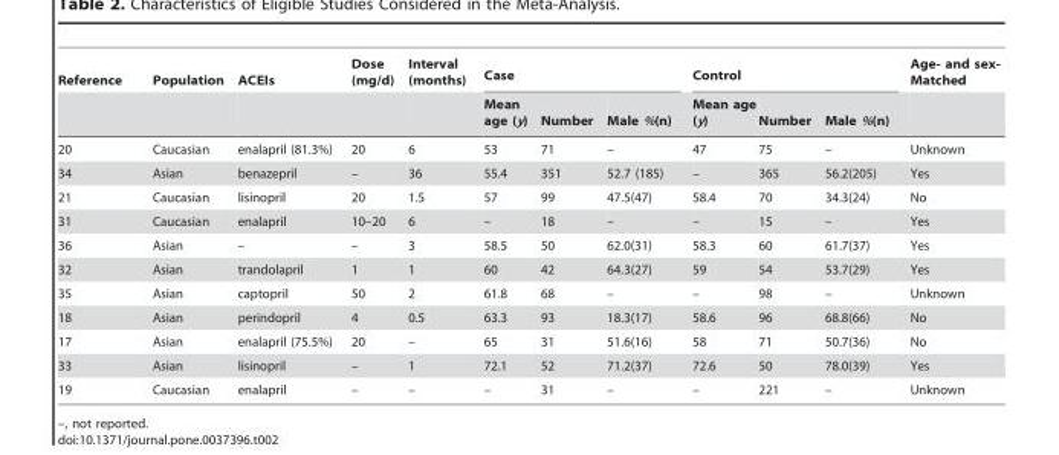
<table><thead><tr><td rowspan="2">Reference</td><td rowspan="2">Population</td><td rowspan="2">ACEIs</td><td rowspan="2">Dose (mg/d)</td><td rowspan="2">Interval (months)</td><td colspan="3">Case</td><td colspan="3">Control</td><td rowspan="2">Age- and sex- Matched</td></tr><tr><td>Mean age (y)</td><td>Number</td><td>Male %(n)</td><td>Mean age (y)</td><td>Number</td><td>Male %(n)</td></tr></thead><tbody><tr><td>20</td><td>Caucasian</td><td>enalapril (81.3%)</td><td>20</td><td>6</td><td>53</td><td>71</td><td>–</td><td>47</td><td>75</td><td>–</td><td>Unknown</td></tr><tr><td>34</td><td>Asian</td><td>benazepril</td><td>–</td><td>36</td><td>55.4</td><td>351</td><td>52.7 (185)</td><td>–</td><td>365</td><td>56.2(205)</td><td>Yes</td></tr><tr><td>21</td><td>Caucasian</td><td>lisinopril</td><td>20</td><td>1.5</td><td>57</td><td>99</td><td>47.5(47)</td><td>58.4</td><td>70</td><td>34.3(24)</td><td>No</td></tr><tr><td>31</td><td>Caucasian</td><td>enalapril</td><td>10–20</td><td>6</td><td>–</td><td>18</td><td>–</td><td>–</td><td>15</td><td>–</td><td>Yes</td></tr><tr><td>36</td><td>Asian</td><td>–</td><td>–</td><td>3</td><td>58.5</td><td>50</td><td>62.0(31)</td><td>58.3</td><td>60</td><td>61.7(37)</td><td>Yes</td></tr><tr><td>32</td><td>Asian</td><td>trandolapril</td><td>1</td><td>1</td><td>60</td><td>42</td><td>64.3(27)</td><td>59</td><td>54</td><td>53.7(29)</td><td>Yes</td></tr><tr><td>35</td><td>Asian</td><td>captopril</td><td>50</td><td>2</td><td>61.8</td><td>68</td><td>–</td><td>–</td><td>98</td><td>–</td><td>Unknown</td></tr><tr><td>18</td><td>Asian</td><td>perindopril</td><td>4</td><td>0.5</td><td>63.3</td><td>93</td><td>18.3(17)</td><td>58.6</td><td>96</td><td>68.8(66)</td><td>No</td></tr><tr><td>17</td><td>Asian</td><td>enalapril (75.5%)</td><td>20</td><td>–</td><td>65</td><td>31</td><td>51.6(16)</td><td>58</td><td>71</td><td>50.7(36)</td><td>No</td></tr><tr><td>33</td><td>Asian</td><td>lisinopril</td><td>–</td><td>1</td><td>72.1</td><td>52</td><td>71.2(37)</td><td>72.6</td><td>50</td><td>78.0(39)</td><td>Yes</td></tr><tr><td>19</td><td>Caucasian</td><td>enalapril</td><td>–</td><td>–</td><td>–</td><td>31</td><td>–</td><td>–</td><td>221</td><td>–</td><td>Unknown</td></tr></tbody></table>